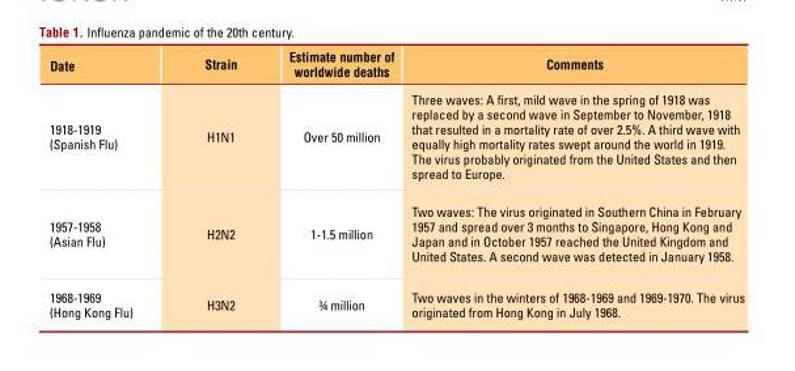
<table><thead><tr><td>Date</td><td>Strain</td><td>Estimate number of worldwide deaths</td><td>Comments</td></tr></thead><tbody><tr><td>1918-1919 (Spanish Flu)</td><td>H1N1</td><td>Over 50 million</td><td>Three waves: A first, mild wave in the spring of 1918 was replaced by a second wave in September to November, 1918 that resulted in a mortality rate of over 2.5%. A third wave with equally high mortality rates swept around the world in 1919. The virus probably originated from the United States and then spread to Europe.</td></tr><tr><td>1957-1958 (Asian Flu)</td><td>H2N2</td><td>1-1.5 million</td><td>Two waves: The virus originated in Southern China in February 1957 and spread over 3 months to Singapore, Hong Kong and Japan and in October 1957 reached the United Kingdom and United States. A second wave was detected in January 1958.</td></tr><tr><td>1968-1969 (Hong Kong Flu)</td><td>H3N2</td><td>¾ million</td><td>Two waves in the winters of 1968-1969 and 1969-1970. The virus originated from Hong Kong in July 1968.</td></tr></tbody></table>